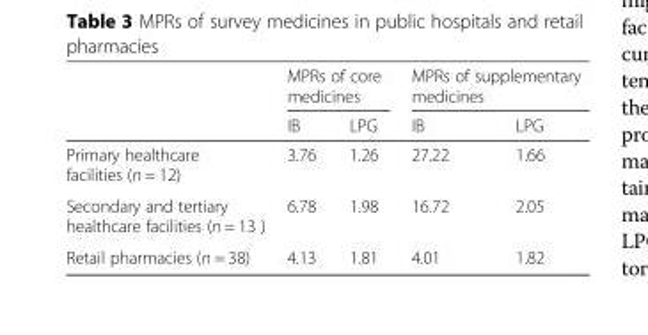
<table><thead><tr><td rowspan="2"></td><td colspan="2">MPRs of core medicines</td><td colspan="2">MPRs of supplementary medicines</td></tr><tr><td>IB</td><td>LPG</td><td>IB</td><td>LPG</td></tr></thead><tbody><tr><td>Primary healthcare facilities (n = 12)</td><td>3.76</td><td>1.26</td><td>27.22</td><td>1.66</td></tr><tr><td>Secondary and tertiary healthcare facilities (n = 13 )</td><td>6.78</td><td>1.98</td><td>16.72</td><td>2.05</td></tr><tr><td>Retail pharmacies (n = 38)</td><td>4.13</td><td>1.81</td><td>4.01</td><td>1.82</td></tr></tbody></table>